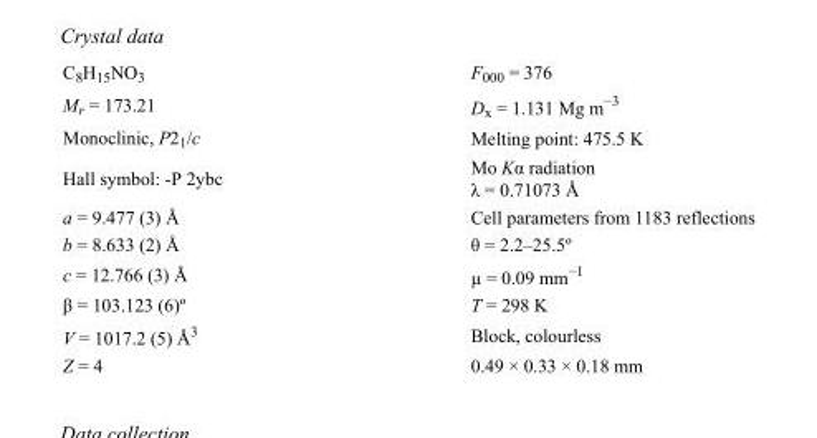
<table><tbody><tr><td>C<sub>8</sub>H<sub>15</sub>NO<sub>3</sub></td><td>F000 = 376</td></tr><tr><td>M<sub>r</sub> = 173.21</td><td>D<sub>x</sub> = 1.131 Mg m<sup>−3</sup></td></tr><tr><td>Monoclinic, P2<sub>1</sub>/c</td><td>Melting point: 475.5 K</td></tr><tr><td>Hall symbol: -P 2ybc</td><td>Mo Kα radiation λ = 0.71073 Å</td></tr><tr><td>a = 9.477 (3) Å</td><td>Cell parameters from 1183 reflections</td></tr><tr><td>b = 8.633 (2) Å</td><td>θ = 2.2–25.5º</td></tr><tr><td>c = 12.766 (3) Å</td><td>µ = 0.09 mm<sup>−1</sup></td></tr><tr><td>β = 103.123 (6)º</td><td>T = 298 K</td></tr><tr><td>V = 1017.2 (5) Å<sup>3</sup></td><td>Block, colourless</td></tr><tr><td>Z = 4</td><td>0.49 × 0.33 × 0.18 mm</td></tr></tbody></table>